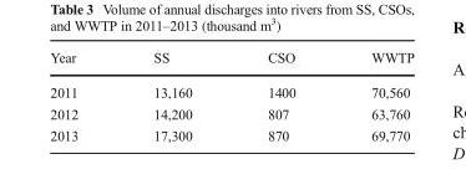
<table><thead><tr><td>Year</td><td>SS</td><td>CSO</td><td>WWTP</td></tr></thead><tbody><tr><td>2011</td><td>13,160</td><td>1400</td><td>70,560</td></tr><tr><td>2012</td><td>14,200</td><td>807</td><td>63,760</td></tr><tr><td>2013</td><td>17,300</td><td>870</td><td>69,770</td></tr></tbody></table>